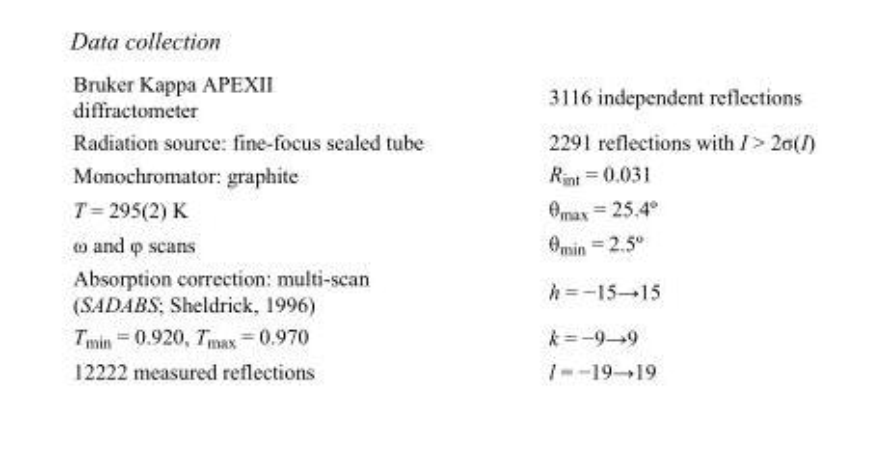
<table><tbody><tr><td>Bruker Kappa APEXII diffractometer</td><td>3116 independent reflections</td></tr><tr><td>Radiation source: fine-focus sealed tube</td><td>2291 reflections with I &gt; 2σ(I)</td></tr><tr><td>Monochromator: graphite</td><td>R<sub>int</sub> = 0.031</td></tr><tr><td>T = 295(2) K</td><td>θ<sub>max</sub> = 25.4º</td></tr><tr><td>ω and φ scans</td><td>θ<sub>min</sub> = 2.5º</td></tr><tr><td>Absorption correction: multi-scan (SADABS; Sheldrick, 1996)</td><td>h = −15→15</td></tr><tr><td>T<sub>min</sub> = 0.920, T<sub>max</sub> = 0.970</td><td>k = −9→9</td></tr><tr><td>12222 measured reflections</td><td>l = −19→19</td></tr></tbody></table>